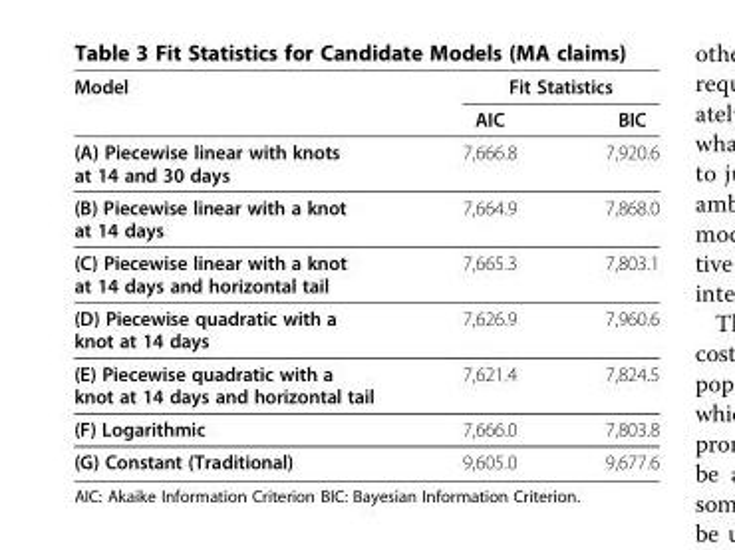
<table><thead><tr><td rowspan="2">Model</td><td colspan="2">Fit Statistics</td></tr><tr><td>AIC</td><td>BIC</td></tr></thead><tbody><tr><td>(A) Piecewise linear with knots at 14 and 30 days</td><td>7,666.8</td><td>7,920.6</td></tr><tr><td>(B) Piecewise linear with a knot at 14 days</td><td>7,664.9</td><td>7,868.0</td></tr><tr><td>(C) Piecewise linear with a knot at 14 days and horizontal tail</td><td>7,665.3</td><td>7,803.1</td></tr><tr><td>(D) Piecewise quadratic with a knot at 14 days</td><td>7,626.9</td><td>7,960.6</td></tr><tr><td>(E) Piecewise quadratic with a knot at 14 days and horizontal tail</td><td>7,621.4</td><td>7,824.5</td></tr><tr><td>(F) Logarithmic</td><td>7,666.0</td><td>7,803.8</td></tr><tr><td>(G) Constant (Traditional)</td><td>9,605.0</td><td>9,677.6</td></tr></tbody></table>